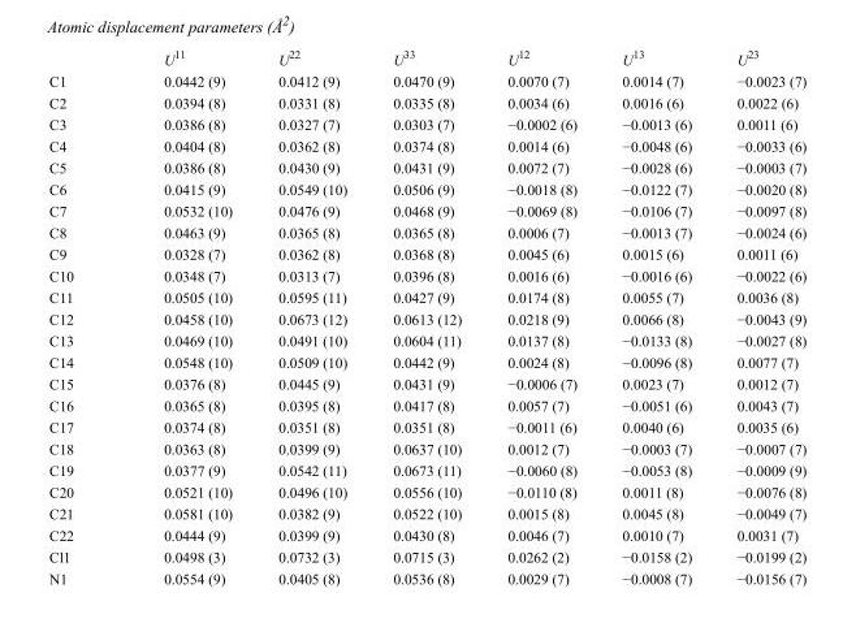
<table><thead><tr><td></td><td>U<sup>11</sup></td><td>U<sup>22</sup></td><td>U<sup>33</sup></td><td>U<sup>12</sup></td><td>U<sup>13</sup></td><td>U<sup>23</sup></td></tr></thead><tbody><tr><td>C1</td><td>0.0442 (9)</td><td>0.0412 (9)</td><td>0.0470 (9)</td><td>0.0070 (7)</td><td>0.0014 (7)</td><td>−0.0023 (7)</td></tr><tr><td>C2</td><td>0.0394 (8)</td><td>0.0331 (8)</td><td>0.0335 (8)</td><td>0.0034 (6)</td><td>0.0016 (6)</td><td>0.0022 (6)</td></tr><tr><td>C3</td><td>0.0386 (8)</td><td>0.0327 (7)</td><td>0.0303 (7)</td><td>−0.0002 (6)</td><td>−0.0013 (6)</td><td>0.0011 (6)</td></tr><tr><td>C4</td><td>0.0404 (8)</td><td>0.0362 (8)</td><td>0.0374 (8)</td><td>0.0014 (6)</td><td>−0.0048 (6)</td><td>−0.0033 (6)</td></tr><tr><td>C5</td><td>0.0386 (8)</td><td>0.0430 (9)</td><td>0.0431 (9)</td><td>0.0072 (7)</td><td>−0.0028 (6)</td><td>−0.0003 (7)</td></tr><tr><td>C6</td><td>0.0415 (9)</td><td>0.0549 (10)</td><td>0.0506 (9)</td><td>−0.0018 (8)</td><td>−0.0122 (7)</td><td>−0.0020 (8)</td></tr><tr><td>C7</td><td>0.0532 (10)</td><td>0.0476 (9)</td><td>0.0468 (9)</td><td>−0.0069 (8)</td><td>−0.0106 (7)</td><td>−0.0097 (8)</td></tr><tr><td>C8</td><td>0.0463 (9)</td><td>0.0365 (8)</td><td>0.0365 (8)</td><td>0.0006 (7)</td><td>−0.0013 (7)</td><td>−0.0024 (6)</td></tr><tr><td>C9</td><td>0.0328 (7)</td><td>0.0362 (8)</td><td>0.0368 (8)</td><td>0.0045 (6)</td><td>0.0015 (6)</td><td>0.0011 (6)</td></tr><tr><td>C10</td><td>0.0348 (7)</td><td>0.0313 (7)</td><td>0.0396 (8)</td><td>0.0016 (6)</td><td>−0.0016 (6)</td><td>−0.0022 (6)</td></tr><tr><td>C11</td><td>0.0505 (10)</td><td>0.0595 (11)</td><td>0.0427 (9)</td><td>0.0174 (8)</td><td>0.0055 (7)</td><td>0.0036 (8)</td></tr><tr><td>C12</td><td>0.0458 (10)</td><td>0.0673 (12)</td><td>0.0613 (12)</td><td>0.0218 (9)</td><td>0.0066 (8)</td><td>−0.0043 (9)</td></tr><tr><td>C13</td><td>0.0469 (10)</td><td>0.0491 (10)</td><td>0.0604 (11)</td><td>0.0137 (8)</td><td>−0.0133 (8)</td><td>−0.0027 (8)</td></tr><tr><td>C14</td><td>0.0548 (10)</td><td>0.0509 (10)</td><td>0.0442 (9)</td><td>0.0024 (8)</td><td>−0.0096 (8)</td><td>0.0077 (7)</td></tr><tr><td>C15</td><td>0.0376 (8)</td><td>0.0445 (9)</td><td>0.0431 (9)</td><td>−0.0006 (7)</td><td>0.0023 (7)</td><td>0.0012 (7)</td></tr><tr><td>C16</td><td>0.0365 (8)</td><td>0.0395 (8)</td><td>0.0417 (8)</td><td>0.0057 (7)</td><td>−0.0051 (6)</td><td>0.0043 (7)</td></tr><tr><td>C17</td><td>0.0374 (8)</td><td>0.0351 (8)</td><td>0.0351 (8)</td><td>−0.0011 (6)</td><td>0.0040 (6)</td><td>0.0035 (6)</td></tr><tr><td>C18</td><td>0.0363 (8)</td><td>0.0399 (9)</td><td>0.0637 (10)</td><td>0.0012 (7)</td><td>−0.0003 (7)</td><td>−0.0007 (7)</td></tr><tr><td>C19</td><td>0.0377 (9)</td><td>0.0542 (11)</td><td>0.0673 (11)</td><td>−0.0060 (8)</td><td>−0.0053 (8)</td><td>−0.0009 (9)</td></tr><tr><td>C20</td><td>0.0521 (10)</td><td>0.0496 (10)</td><td>0.0556 (10)</td><td>−0.0110 (8)</td><td>0.0011 (8)</td><td>−0.0076 (8)</td></tr><tr><td>C21</td><td>0.0581 (10)</td><td>0.0382 (9)</td><td>0.0522 (10)</td><td>0.0015 (8)</td><td>0.0045 (8)</td><td>−0.0049 (7)</td></tr><tr><td>C22</td><td>0.0444 (9)</td><td>0.0399 (9)</td><td>0.0430 (8)</td><td>0.0046 (7)</td><td>0.0010 (7)</td><td>0.0031 (7)</td></tr><tr><td>Cl1</td><td>0.0498 (3)</td><td>0.0732 (3)</td><td>0.0715 (3)</td><td>0.0262 (2)</td><td>−0.0158 (2)</td><td>−0.0199 (2)</td></tr><tr><td>N1</td><td>0.0554 (9)</td><td>0.0405 (8)</td><td>0.0536 (8)</td><td>0.0029 (7)</td><td>−0.0008 (7)</td><td>−0.0156 (7)</td></tr></tbody></table>